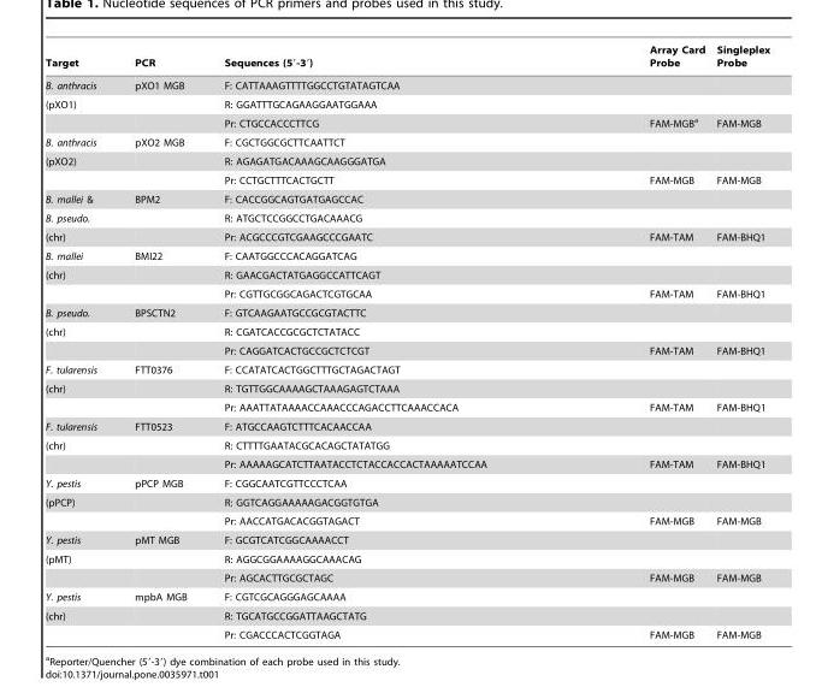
<table><thead><tr><td>Target</td><td>PCR</td><td>Sequences (5′-3′)</td><td>Array Card Probe</td><td>Singleplex Probe</td></tr></thead><tbody><tr><td>B. anthracis</td><td>pXO1 MGB</td><td>F: CATTAAAGTTTTGGCCTGTATAGTCAA</td><td></td><td></td></tr><tr><td rowspan="2">(pXO1)</td><td></td><td>R: GGATTTGCAGAAGGAATGGAAA</td><td></td><td></td></tr><tr><td></td><td>Pr: CTGCCACCCTTCG</td><td>FAM-MGB<sup>a</sup></td><td>FAM-MGB</td></tr><tr><td>B. anthracis</td><td>pXO2 MGB</td><td>F: CGCTGGCGCTTCAATTCT</td><td></td><td></td></tr><tr><td rowspan="2">(pXO2)</td><td></td><td>R: AGAGATGACAAAGCAAGGGATGA</td><td></td><td></td></tr><tr><td></td><td>Pr: CCTGCTTTCACTGCTT</td><td>FAM-MGB</td><td>FAM-MGB</td></tr><tr><td>B. mallei &amp;</td><td>BPM2</td><td>F: CACCGGCAGTGATGAGCCAC</td><td></td><td></td></tr><tr><td>B. pseudo.</td><td></td><td>R: ATGCTCCGGCCTGACAAACG</td><td></td><td></td></tr><tr><td>(chr)</td><td></td><td>Pr: ACGCCCGTCGAAGCCCGAATC</td><td>FAM-TAM</td><td>FAM-BHQ1</td></tr><tr><td>B. mallei</td><td>BMI22</td><td>F: CAATGGCCCACAGGATCAG</td><td></td><td></td></tr><tr><td rowspan="2">(chr)</td><td></td><td>R: GAACGACTATGAGGCCATTCAGT</td><td></td><td></td></tr><tr><td></td><td>Pr: CGTTGCGGCAGACTCGTGCAA</td><td>FAM-TAM</td><td>FAM-BHQ1</td></tr><tr><td>B. pseudo.</td><td>BPSCTN2</td><td>F: GTCAAGAATGCCGCGTACTTC</td><td></td><td></td></tr><tr><td rowspan="2">(chr)</td><td></td><td>R: CGATCACCGCGCTCTATACC</td><td></td><td></td></tr><tr><td></td><td>Pr: CAGGATCACTGCCGCTCTCGT</td><td>FAM-TAM</td><td>FAM-BHQ1</td></tr><tr><td>F. tularensis</td><td>FTT0376</td><td>F: CCATATCACTGGCTTTGCTAGACTAGT</td><td></td><td></td></tr><tr><td rowspan="2">(chr)</td><td></td><td>R: TGTTGGCAAAAGCTAAAGAGTCTAAA</td><td></td><td></td></tr><tr><td></td><td>Pr: AAATTATAAAACCAAACCCAGACCTTCAAACCACA</td><td>FAM-TAM</td><td>FAM-BHQ1</td></tr><tr><td>F. tularensis</td><td>FTT0523</td><td>F: ATGCCAAGTCTTTCACAACCAA</td><td></td><td></td></tr><tr><td rowspan="2">(chr)</td><td></td><td>R: CTTTTGAATACGCACAGCTATATGG</td><td></td><td></td></tr><tr><td></td><td>Pr: AAAAAGCATCTTAATACCTCTACCACCACTAAAAATCCAA</td><td>FAM-TAM</td><td>FAM-BHQ1</td></tr><tr><td>Y. pestis</td><td>pPCP MGB</td><td>F: CGGCAATCGTTCCCTCAA</td><td></td><td></td></tr><tr><td rowspan="2">(pPCP)</td><td></td><td>R: GGTCAGGAAAAAGACGGTGTGA</td><td></td><td></td></tr><tr><td></td><td>Pr: AACCATGACACGGTAGACT</td><td>FAM-MGB</td><td>FAM-MGB</td></tr><tr><td>Y. pestis</td><td>pMT MGB</td><td>F: GCGTCATCGGCAAAACCT</td><td></td><td></td></tr><tr><td rowspan="2">(pMT)</td><td></td><td>R: AGGCGGAAAAGGCAAACAG</td><td></td><td></td></tr><tr><td></td><td>Pr: AGCACTTGCGCTAGC</td><td>FAM-MGB</td><td>FAM-MGB</td></tr><tr><td>Y. pestis</td><td>mpbA MGB</td><td>F: CGTCGCAGGGAGCAAAA</td><td></td><td></td></tr><tr><td rowspan="2">(chr)</td><td></td><td>R: TGCATGCCGGATTAAGCTATG</td><td></td><td></td></tr><tr><td></td><td>Pr: CGACCCACTCGGTAGA</td><td>FAM-MGB</td><td>FAM-MGB</td></tr></tbody></table>